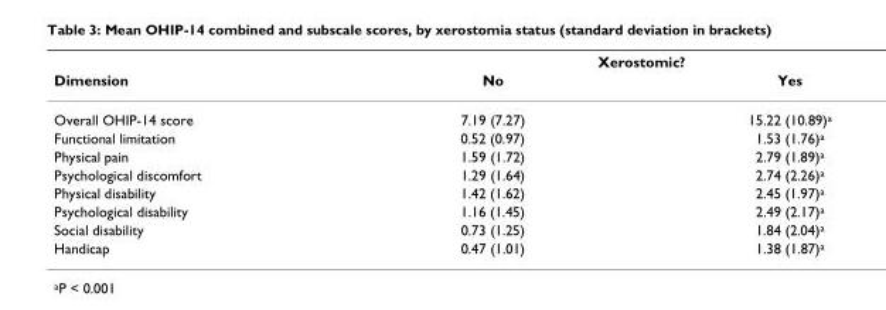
<table><thead><tr><td rowspan="2">Dimension</td><td colspan="2">Xerostomic?</td></tr><tr><td>No</td><td>Yes</td></tr></thead><tbody><tr><td>Overall OHIP-14 score</td><td>7.19 (7.27)</td><td>15.22 (10.89)<sup>a</sup></td></tr><tr><td>Functional limitation</td><td>0.52 (0.97)</td><td>1.53 (1.76)<sup>a</sup></td></tr><tr><td>Physical pain</td><td>1.59 (1.72)</td><td>2.79 (1.89)<sup>a</sup></td></tr><tr><td>Psychological discomfort</td><td>1.29 (1.64)</td><td>2.74 (2.26)<sup>a</sup></td></tr><tr><td>Physical disability</td><td>1.42 (1.62)</td><td>2.45 (1.97)<sup>a</sup></td></tr><tr><td>Psychological disability</td><td>1.16 (1.45)</td><td>2.49 (2.17)<sup>a</sup></td></tr><tr><td>Social disability</td><td>0.73 (1.25)</td><td>1.84 (2.04)<sup>a</sup></td></tr><tr><td>Handicap</td><td>0.47 (1.01)</td><td>1.38 (1.87)<sup>a</sup></td></tr></tbody></table>